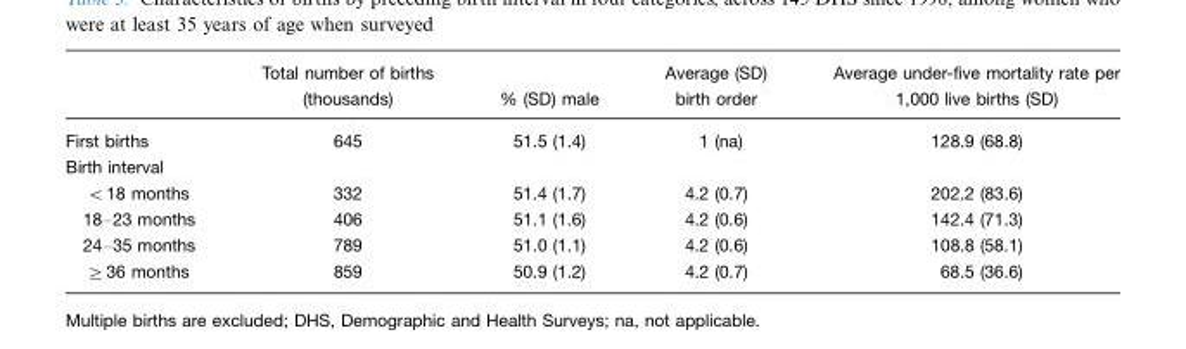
<table><thead><tr><td></td><td>Total number of births (thousands)</td><td>% (SD) male</td><td>Average (SD) birth order</td><td>Average under-five mortality rate per 1,000 live births (SD)</td></tr></thead><tbody><tr><td>First births</td><td>645</td><td>51.5 (1.4)</td><td>1 (na)</td><td>128.9 (68.8)</td></tr><tr><td colspan="5">Birth interval</td></tr><tr><td>&lt;18 months</td><td>332</td><td>51.4 (1.7)</td><td>4.2 (0.7)</td><td>202.2 (83.6)</td></tr><tr><td>18–23 months</td><td>406</td><td>51.1 (1.6)</td><td>4.2 (0.6)</td><td>142.4 (71.3)</td></tr><tr><td>24–35 months</td><td>789</td><td>51.0 (1.1)</td><td>4.2 (0.6)</td><td>108.8 (58.1)</td></tr><tr><td>≥36 months</td><td>859</td><td>50.9 (1.2)</td><td>4.2 (0.7)</td><td>68.5 (36.6)</td></tr></tbody></table>